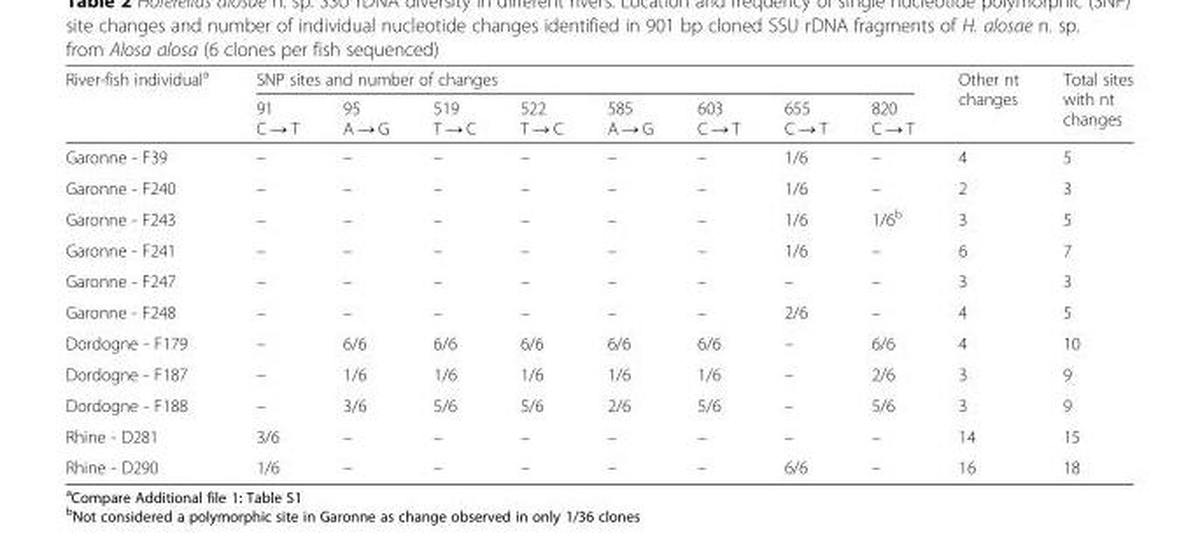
<table><thead><tr><td rowspan="2">River-fish individual<sup>a</sup></td><td colspan="8">SNP sites and number of changes</td><td rowspan="2">Other nt changes</td><td rowspan="2">Total sites with nt changes</td></tr><tr><td>91 C → T</td><td>95 A → G</td><td>519 T → C</td><td>522 T → C</td><td>585 A → G</td><td>603 C → T</td><td>655 C → T</td><td>820 C → T</td></tr></thead><tbody><tr><td>Garonne - F39</td><td>–</td><td>–</td><td>–</td><td>–</td><td>–</td><td>–</td><td>1/6</td><td>–</td><td>4</td><td>5</td></tr><tr><td>Garonne - F240</td><td>–</td><td>–</td><td>–</td><td>–</td><td>–</td><td>–</td><td>1/6</td><td>–</td><td>2</td><td>3</td></tr><tr><td>Garonne - F243</td><td>–</td><td>–</td><td>–</td><td>–</td><td>–</td><td>–</td><td>1/6</td><td>1/6<sup>b</sup></td><td>3</td><td>5</td></tr><tr><td>Garonne - F241</td><td>–</td><td>–</td><td>–</td><td>–</td><td>–</td><td>–</td><td>1/6</td><td>–</td><td>6</td><td>7</td></tr><tr><td>Garonne - F247</td><td>–</td><td>–</td><td>–</td><td>–</td><td>–</td><td>–</td><td>–</td><td>–</td><td>3</td><td>3</td></tr><tr><td>Garonne - F248</td><td>–</td><td>–</td><td>–</td><td>–</td><td>–</td><td>–</td><td>2/6</td><td>–</td><td>4</td><td>5</td></tr><tr><td>Dordogne - F179</td><td>–</td><td>6/6</td><td>6/6</td><td>6/6</td><td>6/6</td><td>6/6</td><td>–</td><td>6/6</td><td>4</td><td>10</td></tr><tr><td>Dordogne - F187</td><td>–</td><td>1/6</td><td>1/6</td><td>1/6</td><td>1/6</td><td>1/6</td><td>–</td><td>2/6</td><td>3</td><td>9</td></tr><tr><td>Dordogne - F188</td><td>–</td><td>3/6</td><td>5/6</td><td>5/6</td><td>2/6</td><td>5/6</td><td>–</td><td>5/6</td><td>3</td><td>9</td></tr><tr><td>Rhine - D281</td><td>3/6</td><td>–</td><td>–</td><td>–</td><td>–</td><td>–</td><td>–</td><td>–</td><td>14</td><td>15</td></tr><tr><td>Rhine - D290</td><td>1/6</td><td>–</td><td>–</td><td>–</td><td>–</td><td>–</td><td>6/6</td><td>–</td><td>16</td><td>18</td></tr></tbody></table>